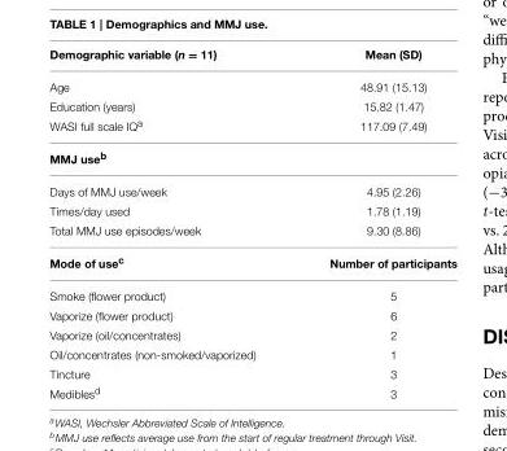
<table><thead><tr><td>Demographic variable (n = 11)</td><td>Mean (SD)</td></tr></thead><tbody><tr><td>Age</td><td>48.91 (15.13)</td></tr><tr><td>Education (years)</td><td>15.82 (1.47)</td></tr><tr><td>WASI full scale IQ<sup>a</sup></td><td>117.09 (7.49)</td></tr><tr><td colspan="2">MMJ use<sup>b</sup></td></tr><tr><td>Days of MMJ use/week</td><td>4.95 (2.26)</td></tr><tr><td>Times/day used</td><td>1.78 (1.19)</td></tr><tr><td>Total MMJ use episodes/week</td><td>9.30 (8.86)</td></tr><tr><td>Mode of use<sup>c</sup></td><td>Number of participants</td></tr><tr><td>Smoke (flower product)</td><td>5</td></tr><tr><td>Vaporize (flower product)</td><td>6</td></tr><tr><td>Vaporize (oil/concentrates)</td><td>2</td></tr><tr><td>Oil/concentrates (non-smoked/vaporized)</td><td>1</td></tr><tr><td>Tincture</td><td>3</td></tr><tr><td>Medibles<sup>d</sup></td><td>3</td></tr></tbody></table>